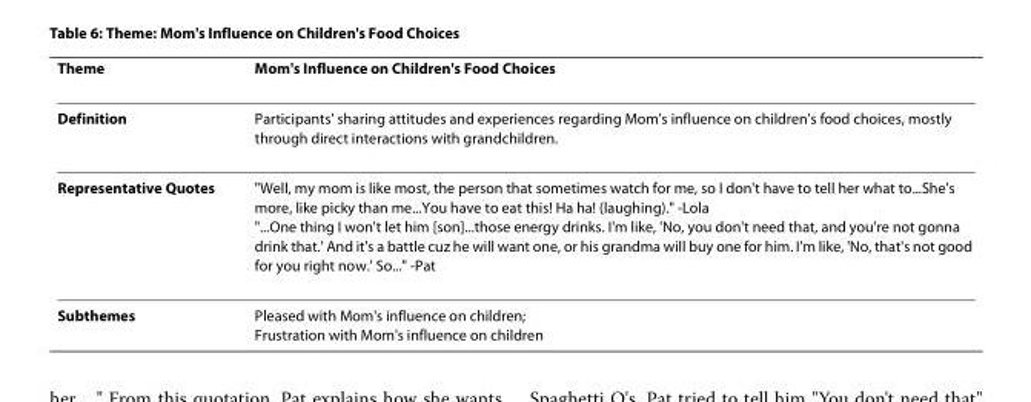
<table><thead><tr><td>Theme</td><td>Mom&#x27;s Influence on Children&#x27;s Food Choices</td></tr></thead><tbody><tr><td>Definition</td><td>Participants&#x27; sharing attitudes and experiences regarding Mom&#x27;s influence on children&#x27;s food choices, mostly through direct interactions with grandchildren.</td></tr><tr><td>Representative Quotes</td><td>&quot;Well, my mom is like most, the person that sometimes watch for me, so I don&#x27;t have to tell her what to...She&#x27;s more, like picky than me...You have to eat this! Ha ha! (laughing).&quot; -Lola &quot;...One thing I won&#x27;t let him [son]...those energy drinks. I&#x27;m like, &#x27;No, you don&#x27;t need that, and you&#x27;re not gonna drink that.&#x27; And it&#x27;s a battle cuz he will want one, or his grandma will buy one for him. I&#x27;m like, &#x27;No, that&#x27;s not good for you right now.&#x27; So...&quot; -Pat</td></tr><tr><td>Subthemes</td><td>Pleased with Mom&#x27;s influence on children; Frustration with Mom&#x27;s influence on children</td></tr></tbody></table>